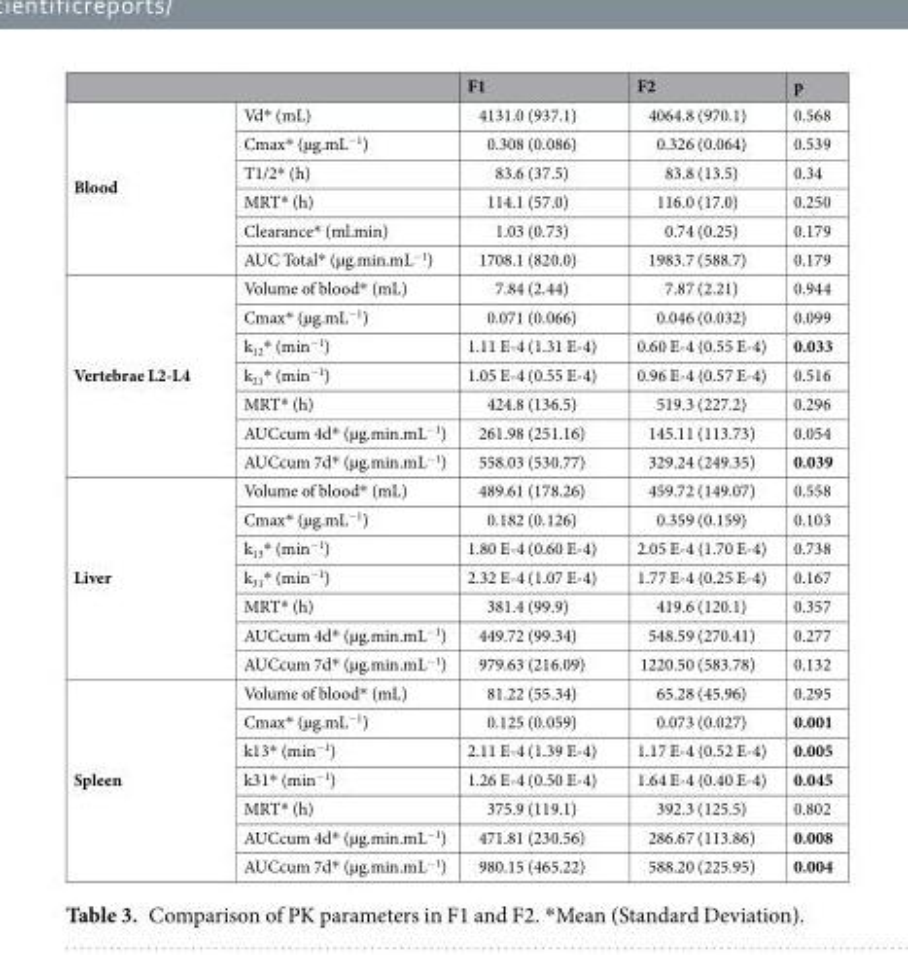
<table><thead><tr><td></td><td></td><td>F1</td><td>F2</td><td>p</td></tr></thead><tbody><tr><td rowspan="6">Blood</td><td>Vd* (mL)</td><td>4131.0 (937.1)</td><td>4064.8 (970.1)</td><td>0.568</td></tr><tr><td>Cmax* (µg.mL<sup>−1</sup>)</td><td>0.308 (0.086)</td><td>0.326 (0.064)</td><td>0.539</td></tr><tr><td>T1/2* (h)</td><td>83.6 (37.5)</td><td>83.8 (13.5)</td><td>0.34</td></tr><tr><td>MRT* (h)</td><td>114.1 (57.0)</td><td>116.0 (17.0)</td><td>0.250</td></tr><tr><td>Clearance* (ml.min)</td><td>1.03 (0.73)</td><td>0.74 (0.25)</td><td>0.179</td></tr><tr><td>AUC Total* (µg.min.mL<sup>−1</sup>)</td><td>1708.1 (820.0)</td><td>1983.7 (588.7)</td><td>0.179</td></tr><tr><td rowspan="7">Vertebrae L2-L4</td><td>Volume of blood* (mL)</td><td>7.84 (2.44)</td><td>7.87 (2.21)</td><td>0.944</td></tr><tr><td>Cmax* (µg.mL<sup>−1</sup>)</td><td>0.071 (0.066)</td><td>0.046 (0.032)</td><td>0.099</td></tr><tr><td>k<sub>12</sub>* (min<sup>−1</sup>)</td><td>1.11 E-4 (1.31 E-4)</td><td>0.60 E-4 (0.55 E-4)</td><td>0.033</td></tr><tr><td>k<sub>21</sub>* (min<sup>−1</sup>)</td><td>1.05 E-4 (0.55 E-4)</td><td>0.96 E-4 (0.57 E-4)</td><td>0.516</td></tr><tr><td>MRT* (h)</td><td>424.8 (136.5)</td><td>519.3 (227.2)</td><td>0.296</td></tr><tr><td>AUCcum 4d* (µg.min.mL<sup>−1</sup>)</td><td>261.98 (251.16)</td><td>145.11 (113.73)</td><td>0.054</td></tr><tr><td>AUCcum 7d* (µg.min.mL<sup>−1</sup>)</td><td>558.03 (530.77)</td><td>329.24 (249.35)</td><td>0.039</td></tr><tr><td rowspan="7">Liver</td><td>Volume of blood* (mL)</td><td>489.61 (178.26)</td><td>459.72 (149.07)</td><td>0.558</td></tr><tr><td>Cmax* (µg.mL<sup>−1</sup>)</td><td>0.182 (0.126)</td><td>0.359 (0.159)</td><td>0.103</td></tr><tr><td>k<sub>13</sub>* (min<sup>−1</sup>)</td><td>1.80 E-4 (0.60 E-4)</td><td>2.05 E-4 (1.70 E-4)</td><td>0.738</td></tr><tr><td>k<sub>31</sub>* (min<sup>−1</sup>)</td><td>2.32 E-4 (1.07 E-4)</td><td>1.77 E-4 (0.25 E-4)</td><td>0.167</td></tr><tr><td>MRT* (h)</td><td>381.4 (99.9)</td><td>419.6 (120.1)</td><td>0.357</td></tr><tr><td>AUCcum 4d* (µg.min.mL<sup>−1</sup>)</td><td>449.72 (99.34)</td><td>548.59 (270.41)</td><td>0.277</td></tr><tr><td>AUCcum 7d* (µg.min.mL<sup>−1</sup>)</td><td>979.63 (216.09)</td><td>1220.50 (583.78)</td><td>0.132</td></tr><tr><td rowspan="7">Spleen</td><td>Volume of blood* (mL)</td><td>81.22 (55.34)</td><td>65.28 (45.96)</td><td>0.295</td></tr><tr><td>Cmax* (µg.mL<sup>−1</sup>)</td><td>0.125 (0.059)</td><td>0.073 (0.027)</td><td>0.001</td></tr><tr><td>k13* (min<sup>−1</sup>)</td><td>2.11 E-4 (1.39 E-4)</td><td>1.17 E-4 (0.52 E-4)</td><td>0.005</td></tr><tr><td>k31* (min<sup>−1</sup>)</td><td>1.26 E-4 (0.50 E-4)</td><td>1.64 E-4 (0.40 E-4)</td><td>0.045</td></tr><tr><td>MRT* (h)</td><td>375.9 (119.1)</td><td>392.3 (125.5)</td><td>0.802</td></tr><tr><td>AUCcum 4d* (µg.min.mL<sup>−1</sup>)</td><td>471.81 (230.56)</td><td>286.67 (113.86)</td><td>0.008</td></tr><tr><td>AUCcum 7d* (µg.min.mL<sup>−1</sup>)</td><td>980.15 (465.22)</td><td>588.20 (225.95)</td><td>0.004</td></tr></tbody></table>